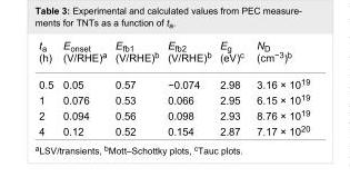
<table><tbody><tr><td>t<sub>a</sub> (h)</td><td>E<sub>onset</sub> (V/RHE)<sup>a</sup></td><td>E<sub>fb1</sub> (V/RHE)<sup>b</sup></td><td>E<sub>fb2</sub> (V/RHE)<sup>b</sup></td><td>E<sub>g</sub> (eV)<sup>c</sup></td><td>N<sub>D</sub> (cm<sup>−3</sup>)<sup>b</sup></td></tr><tr><td>0.5</td><td>0.05</td><td>0.57</td><td>−0.074</td><td>2.98</td><td>3.16 × 10<sup>19</sup></td></tr><tr><td>1</td><td>0.076</td><td>0.53</td><td>0.066</td><td>2.95</td><td>6.15 × 10<sup>19</sup></td></tr><tr><td>2</td><td>0.094</td><td>0.56</td><td>0.098</td><td>2.93</td><td>8.76 × 10<sup>19</sup></td></tr><tr><td>4</td><td>0.12</td><td>0.52</td><td>0.154</td><td>2.87</td><td>7.17 × 10<sup>20</sup></td></tr></tbody></table>